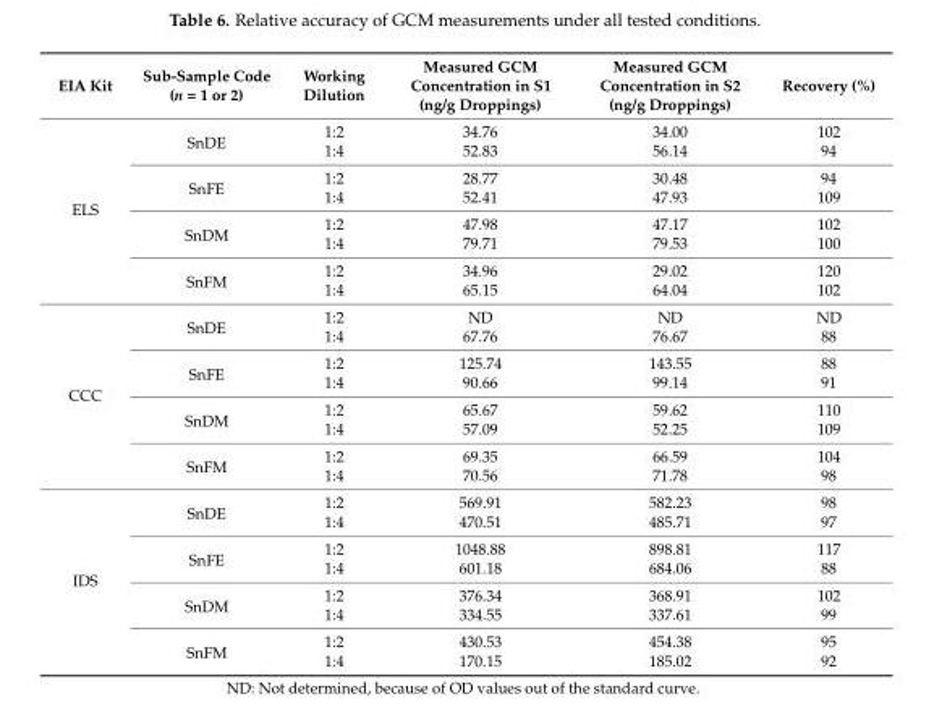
<table><thead><tr><td>EIA Kit</td><td>Sub-Sample Code (n = 1 or 2)</td><td>Working Dilution</td><td>Measured GCM Concentration in S1 (ng/g Droppings)</td><td>Measured GCM Concentration in S2 (ng/g Droppings)</td><td>Recovery (%)</td></tr></thead><tbody><tr><td rowspan="8">ELS</td><td rowspan="2">SnDE</td><td>1:2</td><td>34.76</td><td>34.00</td><td>102</td></tr><tr><td>1:4</td><td>52.83</td><td>56.14</td><td>94</td></tr><tr><td rowspan="2">SnFE</td><td>1:2</td><td>28.77</td><td>30.48</td><td>94</td></tr><tr><td>1:4</td><td>52.41</td><td>47.93</td><td>109</td></tr><tr><td rowspan="2">SnDM</td><td>1:2</td><td>47.98</td><td>47.17</td><td>102</td></tr><tr><td>1:4</td><td>79.71</td><td>79.53</td><td>100</td></tr><tr><td rowspan="2">SnFM</td><td>1:2</td><td>34.96</td><td>29.02</td><td>120</td></tr><tr><td>1:4</td><td>65.15</td><td>64.04</td><td>102</td></tr><tr><td rowspan="8">CCC</td><td rowspan="2">SnDE</td><td>1:2</td><td>ND</td><td>ND</td><td>ND</td></tr><tr><td>1:4</td><td>67.76</td><td>76.67</td><td>88</td></tr><tr><td rowspan="2">SnFE</td><td>1:2</td><td>125.74</td><td>143.55</td><td>88</td></tr><tr><td>1:4</td><td>90.66</td><td>99.14</td><td>91</td></tr><tr><td rowspan="2">SnDM</td><td>1:2</td><td>65.67</td><td>59.62</td><td>110</td></tr><tr><td>1:4</td><td>57.09</td><td>52.25</td><td>109</td></tr><tr><td rowspan="2">SnFM</td><td>1:2</td><td>69.35</td><td>66.59</td><td>104</td></tr><tr><td>1:4</td><td>70.56</td><td>71.78</td><td>98</td></tr><tr><td rowspan="8">IDS</td><td rowspan="2">SnDE</td><td>1:2</td><td>569.91</td><td>582.23</td><td>98</td></tr><tr><td>1:4</td><td>470.51</td><td>485.71</td><td>97</td></tr><tr><td rowspan="2">SnFE</td><td>1:2</td><td>1048.88</td><td>898.81</td><td>117</td></tr><tr><td>1:4</td><td>601.18</td><td>684.06</td><td>88</td></tr><tr><td rowspan="2">SnDM</td><td>1:2</td><td>376.34</td><td>368.91</td><td>102</td></tr><tr><td>1:4</td><td>334.55</td><td>337.61</td><td>99</td></tr><tr><td rowspan="2">SnFM</td><td>1:2</td><td>430.53</td><td>454.38</td><td>95</td></tr><tr><td>1:4</td><td>170.15</td><td>185.02</td><td>92</td></tr></tbody></table>